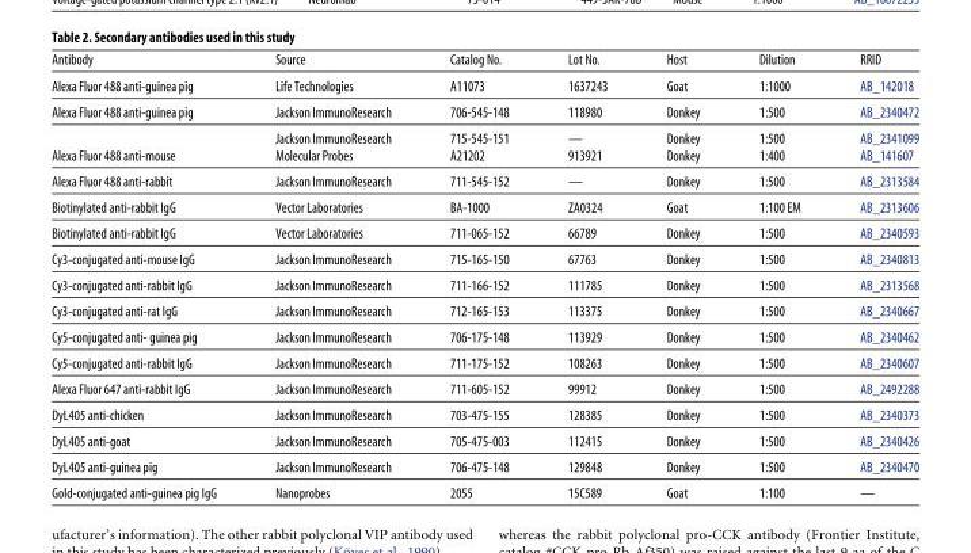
<table><thead><tr><td>Antibody</td><td>Source</td><td>Catalog No.</td><td>Lot No.</td><td>Host</td><td>Dilution</td><td>RRID</td></tr></thead><tbody><tr><td>Alexa Fluor 488 anti-guinea pig</td><td>Life Technologies</td><td>A11073</td><td>1637243</td><td>Goat</td><td>1:1000</td><td>AB_142018</td></tr><tr><td rowspan="2">Alexa Fluor 488 anti-guinea pig</td><td>Jackson ImmunoResearch</td><td>706-545-148</td><td>118980</td><td>Donkey</td><td>1:500</td><td>AB_2340472</td></tr><tr><td>Jackson ImmunoResearch</td><td>715-545-151</td><td>—</td><td>Donkey</td><td>1:500</td><td>AB_2341099</td></tr><tr><td>Alexa Fluor 488 anti-mouse</td><td>Molecular Probes</td><td>A21202</td><td>913921</td><td>Donkey</td><td>1:400</td><td>AB_141607</td></tr><tr><td>Alexa Fluor 488 anti-rabbit</td><td>Jackson ImmunoResearch</td><td>711-545-152</td><td>—</td><td>Donkey</td><td>1:500</td><td>AB_2313584</td></tr><tr><td>Biotinylated anti-rabbit IgG</td><td>Vector Laboratories</td><td>BA-1000</td><td>ZA0324</td><td>Goat</td><td>1:100 EM</td><td>AB_2313606</td></tr><tr><td>Biotinylated anti-rabbit IgG</td><td>Vector Laboratories</td><td>711-065-152</td><td>66789</td><td>Donkey</td><td>1:500</td><td>AB_2340593</td></tr><tr><td>Cy3-conjugated anti-mouse IgG</td><td>Jackson ImmunoResearch</td><td>715-165-150</td><td>67763</td><td>Donkey</td><td>1:500</td><td>AB_2340813</td></tr><tr><td>Cy3-conjugated anti-rabbit IgG</td><td>Jackson ImmunoResearch</td><td>711-166-152</td><td>111785</td><td>Donkey</td><td>1:500</td><td>AB_2313568</td></tr><tr><td>Cy3-conjugated anti-rat IgG</td><td>Jackson ImmunoResearch</td><td>712-165-153</td><td>113375</td><td>Donkey</td><td>1:500</td><td>AB_2340667</td></tr><tr><td>Cy5-conjugated anti- guinea pig</td><td>Jackson ImmunoResearch</td><td>706-175-148</td><td>113929</td><td>Donkey</td><td>1:500</td><td>AB_2340462</td></tr><tr><td>Cy5-conjugated anti-rabbit IgG</td><td>Jackson ImmunoResearch</td><td>711-175-152</td><td>108263</td><td>Donkey</td><td>1:500</td><td>AB_2340607</td></tr><tr><td>Alexa Fluor 647 anti-rabbit IgG</td><td>Jackson ImmunoResearch</td><td>711-605-152</td><td>99912</td><td>Donkey</td><td>1:500</td><td>AB_2492288</td></tr><tr><td>DyL405 anti-chicken</td><td>Jackson ImmunoResearch</td><td>703-475-155</td><td>128385</td><td>Donkey</td><td>1:500</td><td>AB_2340373</td></tr><tr><td>DyL405 anti-goat</td><td>Jackson ImmunoResearch</td><td>705-475-003</td><td>112415</td><td>Donkey</td><td>1:500</td><td>AB_2340426</td></tr><tr><td>DyL405 anti-guinea pig</td><td>Jackson ImmunoResearch</td><td>706-475-148</td><td>129848</td><td>Donkey</td><td>1:500</td><td>AB_2340470</td></tr><tr><td>Gold-conjugated anti-guinea pig IgG</td><td>Nanoprobes</td><td>2055</td><td>15C589</td><td>Goat</td><td>1:100</td><td>—</td></tr></tbody></table>